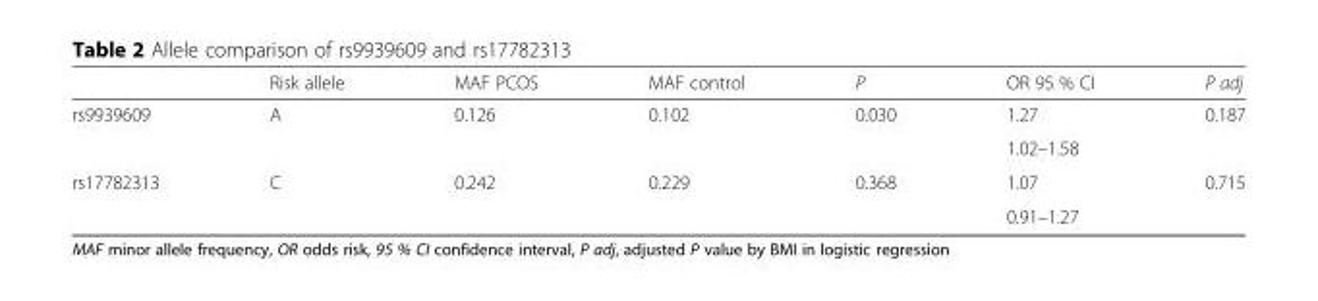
<table><thead><tr><td></td><td>Risk allele</td><td>MAF PCOS</td><td>MAF control</td><td>P</td><td>OR 95 % CI</td><td>P adj</td></tr></thead><tbody><tr><td rowspan="2">rs9939609</td><td rowspan="2">A</td><td rowspan="2">0.126</td><td rowspan="2">0.102</td><td rowspan="2">0.030</td><td>1.27</td><td rowspan="2">0.187</td></tr><tr><td>1.02–1.58</td></tr><tr><td rowspan="2">rs17782313</td><td rowspan="2">C</td><td rowspan="2">0.242</td><td rowspan="2">0.229</td><td rowspan="2">0.368</td><td>1.07</td><td rowspan="2">0.715</td></tr><tr><td>0.91–1.27</td></tr></tbody></table>